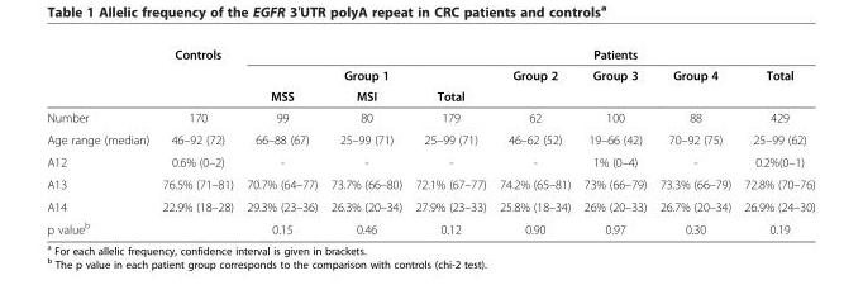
<table><thead><tr><td rowspan="3"></td><td rowspan="3">Controls</td><td rowspan="3">MSS</td><td rowspan="3">Group 1 MSI</td><td rowspan="3">Total</td><td rowspan="3">Group 2</td><td rowspan="3">Patients Group 3</td><td rowspan="3">Group 4</td><td rowspan="3">Total</td></tr><tr></tr><tr></tr></thead><tbody><tr><td>Number</td><td>170</td><td>99</td><td>80</td><td>179</td><td>62</td><td>100</td><td>88</td><td>429</td></tr><tr><td>Age range (median)</td><td>46–92 (72)</td><td>66–88 (67)</td><td>25–99 (71)</td><td>25–99 (71)</td><td>46–62 (52)</td><td>19–66 (42)</td><td>70–92 (75)</td><td>25–99 (62)</td></tr><tr><td>A12</td><td>0.6% (0–2)</td><td>-</td><td>-</td><td>-</td><td>-</td><td>1% (0–4)</td><td>-</td><td>0.2%(0–1)</td></tr><tr><td>A13</td><td>76.5% (71–81)</td><td>70.7% (64–77)</td><td>73.7% (66–80)</td><td>72.1% (67–77)</td><td>74.2% (65–81)</td><td>73% (66–79)</td><td>73.3% (66–79)</td><td>72.8% (70–76)</td></tr><tr><td>A14</td><td>22.9% (18–28)</td><td>29.3% (23–36)</td><td>26.3% (20–34)</td><td>27.9% (23–33)</td><td>25.8% (18–34)</td><td>26% (20–33)</td><td>26.7% (20–34)</td><td>26.9% (24–30)</td></tr><tr><td>p value<sup>b</sup></td><td></td><td>0.15</td><td>0.46</td><td>0.12</td><td>0.90</td><td>0.97</td><td>0.30</td><td>0.19</td></tr></tbody></table>